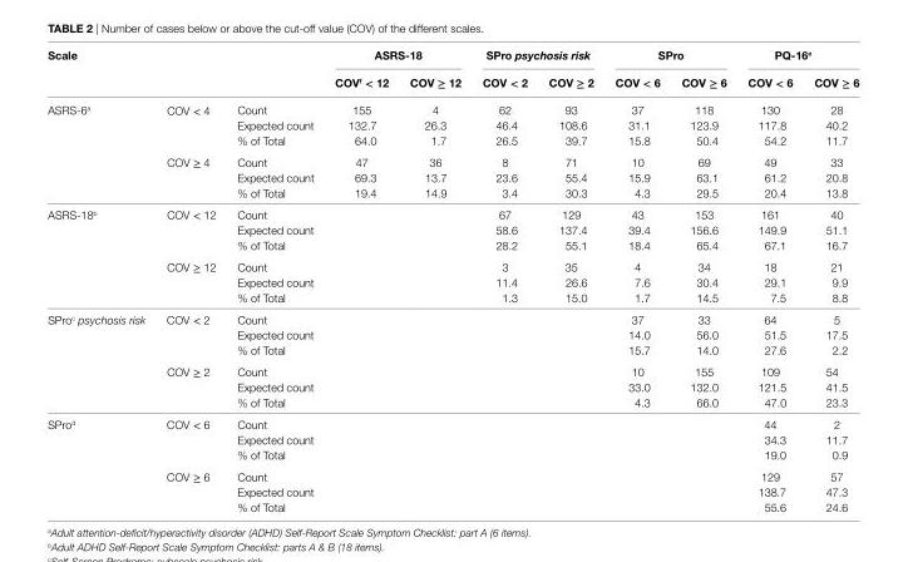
<table><thead><tr><td colspan="3">scale</td><td colspan="2">asrs-18</td><td colspan="2">sPro psychosis risk</td><td colspan="2">sPro</td><td colspan="2">PQ-16<sup>e</sup></td></tr><tr><td></td><td></td><td></td><td>cOV<sup>f</sup> &lt; 12</td><td>cOV ≥ 12</td><td>cOV &lt; 2</td><td>cOV ≥ 2</td><td>cOV &lt; 6</td><td>cOV ≥ 6</td><td>cOV &lt; 6</td><td>cOV ≥ 6</td></tr></thead><tbody><tr><td rowspan="6">ASRS-6<sup>a</sup></td><td rowspan="3">COV &lt; 4</td><td>Count</td><td>155</td><td>4</td><td>62</td><td>93</td><td>37</td><td>118</td><td>130</td><td>28</td></tr><tr><td>Expected count</td><td>132.7</td><td>26.3</td><td>46.4</td><td>108.6</td><td>31.1</td><td>123.9</td><td>117.8</td><td>40.2</td></tr><tr><td>% of Total</td><td>64.0</td><td>1.7</td><td>26.5</td><td>39.7</td><td>15.8</td><td>50.4</td><td>54.2</td><td>11.7</td></tr><tr><td rowspan="3">COV ≥ 4</td><td>Count</td><td>47</td><td>36</td><td>8</td><td>71</td><td>10</td><td>69</td><td>49</td><td>33</td></tr><tr><td>Expected count</td><td>69.3</td><td>13.7</td><td>23.6</td><td>55.4</td><td>15.9</td><td>63.1</td><td>61.2</td><td>20.8</td></tr><tr><td>% of Total</td><td>19.4</td><td>14.9</td><td>3.4</td><td>30.3</td><td>4.3</td><td>29.5</td><td>20.4</td><td>13.8</td></tr><tr><td rowspan="6">ASRS-18<sup>b</sup></td><td rowspan="3">COV &lt; 12</td><td>Count</td><td></td><td></td><td>67</td><td>129</td><td>43</td><td>153</td><td>161</td><td>40</td></tr><tr><td>Expected count</td><td></td><td></td><td>58.6</td><td>137.4</td><td>39.4</td><td>156.6</td><td>149.9</td><td>51.1</td></tr><tr><td>% of Total</td><td></td><td></td><td>28.2</td><td>55.1</td><td>18.4</td><td>65.4</td><td>67.1</td><td>16.7</td></tr><tr><td rowspan="3">COV ≥ 12</td><td>Count</td><td></td><td></td><td>3</td><td>35</td><td>4</td><td>34</td><td>18</td><td>21</td></tr><tr><td>Expected count</td><td></td><td></td><td>11.4</td><td>26.6</td><td>7.6</td><td>30.4</td><td>29.1</td><td>9.9</td></tr><tr><td>% of Total</td><td></td><td></td><td>1.3</td><td>15.0</td><td>1.7</td><td>14.5</td><td>7.5</td><td>8.8</td></tr><tr><td rowspan="6">SPro<sup>c</sup> psychosis risk</td><td rowspan="3">COV &lt; 2</td><td>Count</td><td></td><td></td><td></td><td></td><td>37</td><td>33</td><td>64</td><td>5</td></tr><tr><td>Expected count</td><td></td><td></td><td></td><td></td><td>14.0</td><td>56.0</td><td>51.5</td><td>17.5</td></tr><tr><td>% of Total</td><td></td><td></td><td></td><td></td><td>15.7</td><td>14.0</td><td>27.6</td><td>2.2</td></tr><tr><td rowspan="3">COV ≥ 2</td><td>Count</td><td></td><td></td><td></td><td></td><td>10</td><td>155</td><td>109</td><td>54</td></tr><tr><td>Expected count</td><td></td><td></td><td></td><td></td><td>33.0</td><td>132.0</td><td>121.5</td><td>41.5</td></tr><tr><td>% of Total</td><td></td><td></td><td></td><td></td><td>4.3</td><td>66.0</td><td>47.0</td><td>23.3</td></tr><tr><td rowspan="6">SPro<sup>d</sup></td><td rowspan="3">COV &lt; 6</td><td>Count</td><td></td><td></td><td></td><td></td><td></td><td></td><td>44</td><td>2</td></tr><tr><td>Expected count</td><td></td><td></td><td></td><td></td><td></td><td></td><td>34.3</td><td>11.7</td></tr><tr><td>% of Total</td><td></td><td></td><td></td><td></td><td></td><td></td><td>19.0</td><td>0.9</td></tr><tr><td rowspan="3">COV ≥ 6</td><td>Count</td><td></td><td></td><td></td><td></td><td></td><td></td><td>129</td><td>57</td></tr><tr><td>Expected count</td><td></td><td></td><td></td><td></td><td></td><td></td><td>138.7</td><td>47.3</td></tr><tr><td>% of Total</td><td></td><td></td><td></td><td></td><td></td><td></td><td>55.6</td><td>24.6</td></tr></tbody></table>